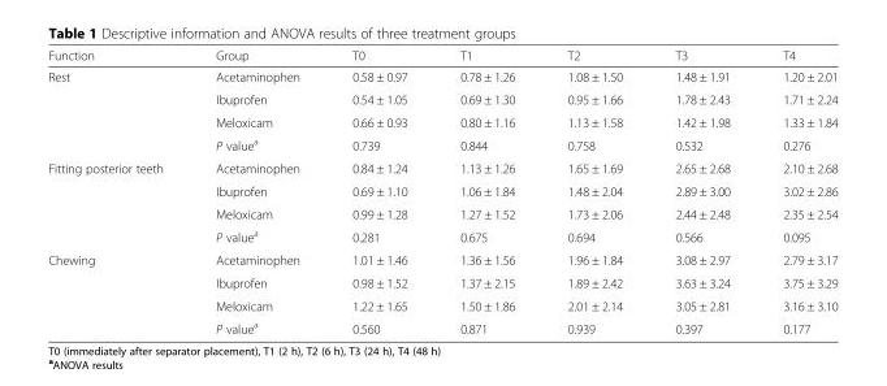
<table><thead><tr><td>Function</td><td>Group</td><td>T0</td><td>T1</td><td>T2</td><td>T3</td><td>T4</td></tr></thead><tbody><tr><td rowspan="4">Rest</td><td>Acetaminophen</td><td>0.58 ± 0.97</td><td>0.78 ± 1.26</td><td>1.08 ± 1.50</td><td>1.48 ± 1.91</td><td>1.20 ± 2.01</td></tr><tr><td>Ibuprofen</td><td>0.54 ± 1.05</td><td>0.69 ± 1.30</td><td>0.95 ± 1.66</td><td>1.78 ± 2.43</td><td>1.71 ± 2.24</td></tr><tr><td>Meloxicam</td><td>0.66 ± 0.93</td><td>0.80 ± 1.16</td><td>1.13 ± 1.58</td><td>1.42 ± 1.98</td><td>1.33 ± 1.84</td></tr><tr><td>P value<sup>a</sup></td><td>0.739</td><td>0.844</td><td>0.758</td><td>0.532</td><td>0.276</td></tr><tr><td rowspan="4">Fitting posterior teeth</td><td>Acetaminophen</td><td>0.84 ± 1.24</td><td>1.13 ± 1.26</td><td>1.65 ± 1.69</td><td>2.65 ± 2.68</td><td>2.10 ± 2.68</td></tr><tr><td>Ibuprofen</td><td>0.69 ± 1.10</td><td>1.06 ± 1.84</td><td>1.48 ± 2.04</td><td>2.89 ± 3.00</td><td>3.02 ± 2.86</td></tr><tr><td>Meloxicam</td><td>0.99 ± 1.28</td><td>1.27 ± 1.52</td><td>1.73 ± 2.06</td><td>2.44 ± 2.48</td><td>2.35 ± 2.54</td></tr><tr><td>P value<sup>a</sup></td><td>0.281</td><td>0.675</td><td>0.694</td><td>0.566</td><td>0.095</td></tr><tr><td rowspan="4">Chewing</td><td>Acetaminophen</td><td>1.01 ± 1.46</td><td>1.36 ± 1.56</td><td>1.96 ± 1.84</td><td>3.08 ± 2.97</td><td>2.79 ± 3.17</td></tr><tr><td>Ibuprofen</td><td>0.98 ± 1.52</td><td>1.37 ± 2.15</td><td>1.89 ± 2.42</td><td>3.63 ± 3.24</td><td>3.75 ± 3.29</td></tr><tr><td>Meloxicam</td><td>1.22 ± 1.65</td><td>1.50 ± 1.86</td><td>2.01 ± 2.14</td><td>3.05 ± 2.81</td><td>3.16 ± 3.10</td></tr><tr><td>P value<sup>a</sup></td><td>0.560</td><td>0.871</td><td>0.939</td><td>0.397</td><td>0.177</td></tr></tbody></table>